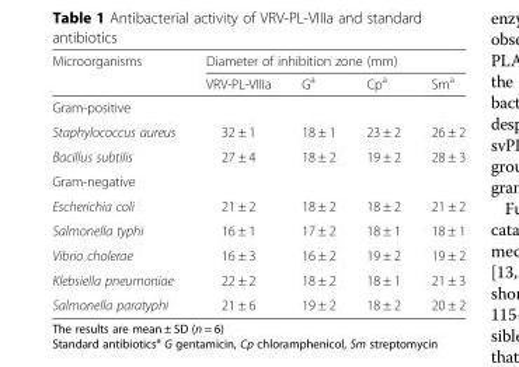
<table><thead><tr><td rowspan="2">Microorganisms</td><td colspan="4">Diameter of inhibition zone (mm)</td></tr><tr><td>VRV-PL-VIIIa</td><td>G<sup>a</sup></td><td>Cp<sup>a</sup></td><td>Sm<sup>a</sup></td></tr></thead><tbody><tr><td colspan="5">Gram-positive</td></tr><tr><td>Staphylococcus aureus</td><td>32 ± 1</td><td>18 ± 1</td><td>23 ± 2</td><td>26 ± 2</td></tr><tr><td>Bacillus subtilis</td><td>27 ± 4</td><td>18 ± 2</td><td>19 ± 2</td><td>28 ± 3</td></tr><tr><td colspan="5">Gram-negative</td></tr><tr><td>Escherichia coli</td><td>21 ± 2</td><td>18 ± 2</td><td>18 ± 2</td><td>21 ± 2</td></tr><tr><td>Salmonella typhi</td><td>16 ± 1</td><td>17 ± 2</td><td>18 ± 1</td><td>18 ± 1</td></tr><tr><td>Vibrio cholerae</td><td>16 ± 3</td><td>16 ± 2</td><td>19 ± 2</td><td>19 ± 2</td></tr><tr><td>Klebsiella pneumoniae</td><td>22 ± 2</td><td>18 ± 2</td><td>18 ± 1</td><td>21 ± 3</td></tr><tr><td>Salmonella paratyphi</td><td>21 ± 6</td><td>19 ± 2</td><td>18 ± 2</td><td>20 ± 2</td></tr></tbody></table>